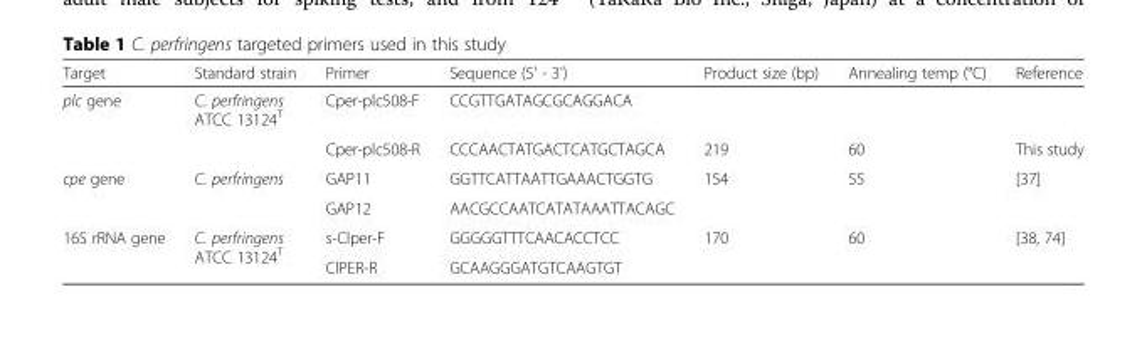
<table><thead><tr><td>Target</td><td>Standard strain</td><td>Primer</td><td>Sequence (5&#x27; - 3&#x27;)</td><td>Product size (bp)</td><td>Annealing temp (°C)</td><td>Reference</td></tr></thead><tbody><tr><td rowspan="2">plc gene</td><td>C. perfringens ATCC 13124<sup>T</sup></td><td>Cper-plc508-F</td><td>CCGTTGATAGCGCAGGACA</td><td></td><td></td><td></td></tr><tr><td></td><td>Cper-plc508-R</td><td>CCCAACTATGACTCATGCTAGCA</td><td>219</td><td>60</td><td>This study</td></tr><tr><td rowspan="2">cpe gene</td><td>C. perfringens</td><td>GAP11</td><td>GGTTCATTAATTGAAACTGGTG</td><td>154</td><td>55</td><td>[37]</td></tr><tr><td></td><td>GAP12</td><td>AACGCCAATCATATAAATTACAGC</td><td></td><td></td><td></td></tr><tr><td rowspan="2">16S rRNA gene</td><td rowspan="2">C. perfringens ATCC 13124<sup>T</sup></td><td>s-Clper-F</td><td>GGGGGTTTCAACACCTCC</td><td rowspan="2">170</td><td rowspan="2">60</td><td rowspan="2">[38, 74]</td></tr><tr><td>ClPER-R</td><td>GCAAGGGATGTCAAGTGT</td></tr></tbody></table>